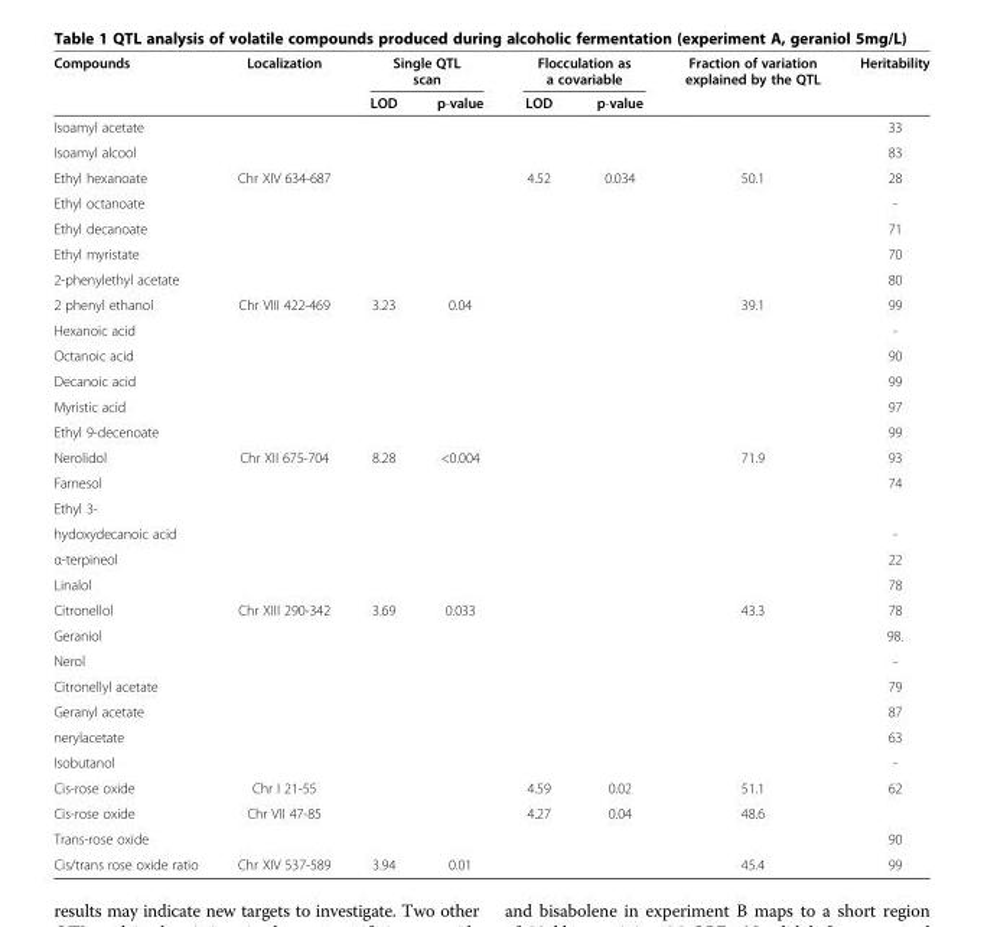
<table><thead><tr><td rowspan="2">Compounds</td><td rowspan="2">Localization</td><td colspan="2">Single QTL scan</td><td colspan="2">Flocculation as a covariable</td><td rowspan="2">Fraction of variation explained by the QTL</td><td rowspan="2">Heritability</td></tr><tr><td>LOD</td><td>p-value</td><td>LOD</td><td>p-value</td></tr></thead><tbody><tr><td>Isoamyl acetate</td><td></td><td></td><td></td><td></td><td></td><td></td><td>33</td></tr><tr><td>Isoamyl alcool</td><td></td><td></td><td></td><td></td><td></td><td></td><td>83</td></tr><tr><td>Ethyl hexanoate</td><td>Chr XIV 634-687</td><td></td><td></td><td>4.52</td><td>0.034</td><td>50.1</td><td>28</td></tr><tr><td>Ethyl octanoate</td><td></td><td></td><td></td><td></td><td></td><td></td><td>-</td></tr><tr><td>Ethyl decanoate</td><td></td><td></td><td></td><td></td><td></td><td></td><td>71</td></tr><tr><td>Ethyl myristate</td><td></td><td></td><td></td><td></td><td></td><td></td><td>70</td></tr><tr><td>2-phenylethyl acetate</td><td></td><td></td><td></td><td></td><td></td><td></td><td>80</td></tr><tr><td>2 phenyl ethanol</td><td>Chr VIII 422-469</td><td>3.23</td><td>0.04</td><td></td><td></td><td>39.1</td><td>99</td></tr><tr><td>Hexanoic acid</td><td></td><td></td><td></td><td></td><td></td><td></td><td>-</td></tr><tr><td>Octanoic acid</td><td></td><td></td><td></td><td></td><td></td><td></td><td>90</td></tr><tr><td>Decanoic acid</td><td></td><td></td><td></td><td></td><td></td><td></td><td>99</td></tr><tr><td>Myristic acid</td><td></td><td></td><td></td><td></td><td></td><td></td><td>97</td></tr><tr><td>Ethyl 9-decenoate</td><td></td><td></td><td></td><td></td><td></td><td></td><td>99</td></tr><tr><td>Nerolidol</td><td>Chr XII 675-704</td><td>8.28</td><td>&lt;0.004</td><td></td><td></td><td>71.9</td><td>93</td></tr><tr><td>Farnesol</td><td></td><td></td><td></td><td></td><td></td><td></td><td>74</td></tr><tr><td colspan="8">Ethyl 3-</td></tr><tr><td>hydoxydecanoic acid</td><td></td><td></td><td></td><td></td><td></td><td></td><td>-</td></tr><tr><td>α-terpineol</td><td></td><td></td><td></td><td></td><td></td><td></td><td>22</td></tr><tr><td>Linalol</td><td></td><td></td><td></td><td></td><td></td><td></td><td>78</td></tr><tr><td>Citronellol</td><td>Chr XIII 290-342</td><td>3.69</td><td>0.033</td><td></td><td></td><td>43.3</td><td>78</td></tr><tr><td>Geraniol</td><td></td><td></td><td></td><td></td><td></td><td></td><td>98.</td></tr><tr><td>Nerol</td><td></td><td></td><td></td><td></td><td></td><td></td><td>-</td></tr><tr><td>Citronellyl acetate</td><td></td><td></td><td></td><td></td><td></td><td></td><td>79</td></tr><tr><td>Geranyl acetate</td><td></td><td></td><td></td><td></td><td></td><td></td><td>87</td></tr><tr><td>nerylacetate</td><td></td><td></td><td></td><td></td><td></td><td></td><td>63</td></tr><tr><td>Isobutanol</td><td></td><td></td><td></td><td></td><td></td><td></td><td>-</td></tr><tr><td>Cis-rose oxide</td><td>Chr I 21-55</td><td></td><td></td><td>4.59</td><td>0.02</td><td>51.1</td><td>62</td></tr><tr><td>Cis-rose oxide</td><td>Chr VII 47-85</td><td></td><td></td><td>4.27</td><td>0.04</td><td>48.6</td><td></td></tr><tr><td>Trans-rose oxide</td><td></td><td></td><td></td><td></td><td></td><td></td><td>90</td></tr><tr><td>Cis/trans rose oxide ratio</td><td>Chr XIV 537-589</td><td>3.94</td><td>0.01</td><td></td><td></td><td>45.4</td><td>99</td></tr></tbody></table>